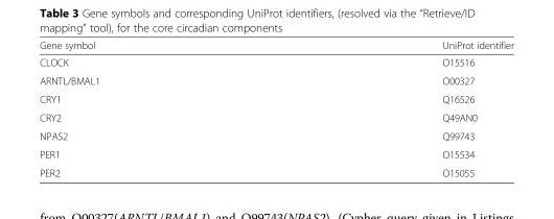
<table><thead><tr><td>Gene symbol</td><td>UniProt identifier</td></tr></thead><tbody><tr><td>CLOCK</td><td>O15516</td></tr><tr><td>ARNTL/BMAL1</td><td>O00327</td></tr><tr><td>CRY1</td><td>Q16526</td></tr><tr><td>CRY2</td><td>Q49AN0</td></tr><tr><td>NPAS2</td><td>Q99743</td></tr><tr><td>PER1</td><td>O15534</td></tr><tr><td>PER2</td><td>O15055</td></tr></tbody></table>